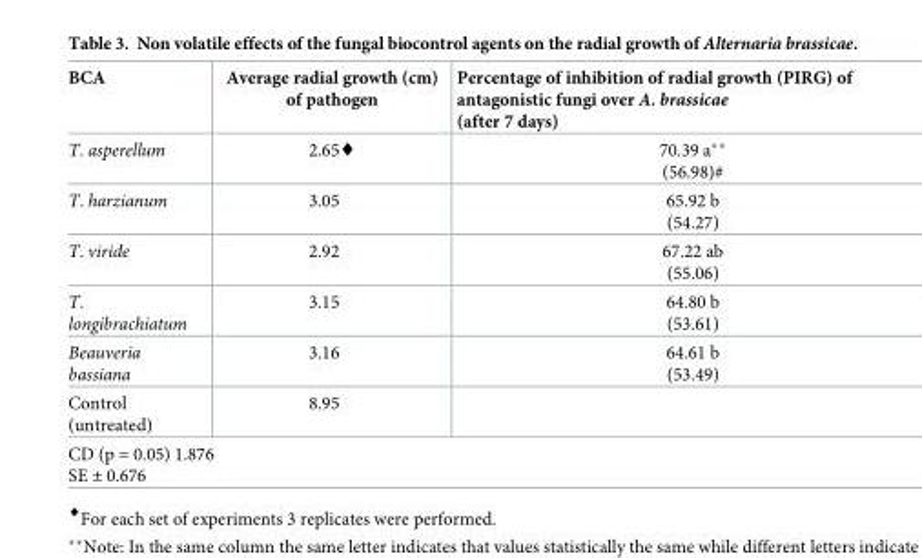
<table><thead><tr><td>BCA</td><td>Average radial growth (cm) of pathogen</td><td>Percentage of inhibition of radial growth (PIRG) of antagonistic fungi over A. brassicae (after 7 days)</td></tr></thead><tbody><tr><td>T. asperellum</td><td>2.65♦</td><td>70.39 a** (56.98)#</td></tr><tr><td>T. harzianum</td><td>3.05</td><td>65.92 b (54.27)</td></tr><tr><td>T. viride</td><td>2.92</td><td>67.22 ab (55.06)</td></tr><tr><td>T. longibrachiatum</td><td>3.15</td><td>64.80 b (53.61)</td></tr><tr><td>Beauveria bassiana</td><td>3.16</td><td>64.61 b (53.49)</td></tr><tr><td>Control (untreated)</td><td>8.95</td><td></td></tr><tr><td colspan="3">CD (p = 0.05) 1.876 SE ± 0.676</td></tr></tbody></table>